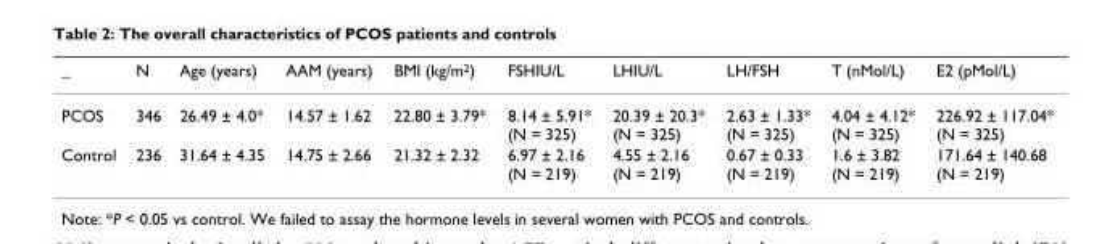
<table><thead><tr><td>_</td><td>N</td><td>Age (years)</td><td>AAM (years)</td><td>BMI (kg/m<sup>2</sup>)</td><td>FSHIU/L</td><td>LHIU/L</td><td>LH/FSH</td><td>T (nMol/L)</td><td>E2 (pMol/L)</td></tr></thead><tbody><tr><td>PCOS</td><td>346</td><td>26.49 ± 4.0*</td><td>14.57 ± 1.62</td><td>22.80 ± 3.79*</td><td>8.14 ± 5.91* (N = 325)</td><td>20.39 ± 20.3* (N = 325)</td><td>2.63 ± 1.33* (N = 325)</td><td>4.04 ± 4.12* (N = 325)</td><td>226.92 ± 117.04* (N = 325)</td></tr><tr><td>Control</td><td>236</td><td>31.64 ± 4.35</td><td>14.75 ± 2.66</td><td>21.32 ± 2.32</td><td>6.97 ± 2.16 (N = 219)</td><td>4.55 ± 2.16 (N = 219)</td><td>0.67 ± 0.33 (N = 219)</td><td>1.6 ± 3.82 (N = 219)</td><td>171.64 ± 140.68 (N = 219)</td></tr></tbody></table>